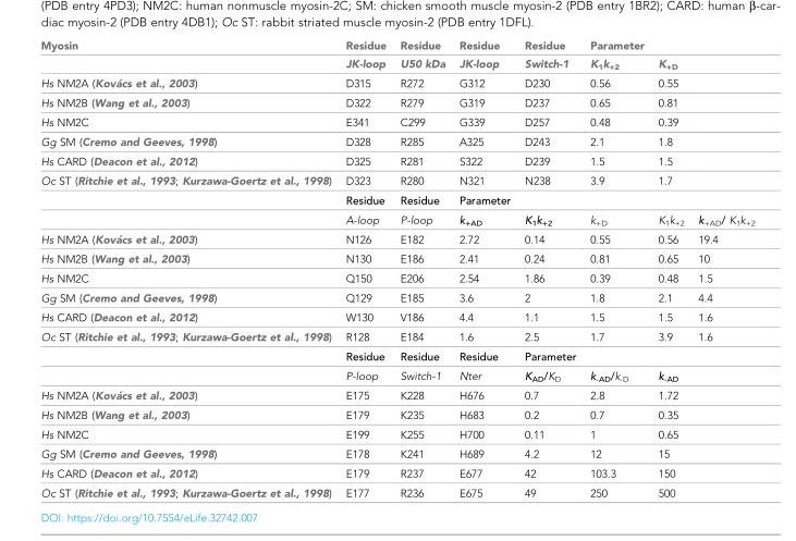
<table><thead><tr><td rowspan="2">Myosin</td><td rowspan="2">Residue JK-loop</td><td rowspan="2">Residue U50 kDa</td><td rowspan="2">Residue JK-loop</td><td rowspan="2">Residue Switch-1</td><td rowspan="2">Parameter K1k+2</td><td rowspan="2">K+D</td><td rowspan="2"></td></tr><tr></tr></thead><tbody><tr><td>Hs NM2A (Kova´cs et al., 2003)</td><td>D315</td><td>R272</td><td>G312</td><td>D230</td><td>0.56</td><td>0.55</td><td></td></tr><tr><td>Hs NM2B (Wang et al., 2003)</td><td>D322</td><td>R279</td><td>G319</td><td>D237</td><td>0.65</td><td>0.81</td><td></td></tr><tr><td>Hs NM2C</td><td>E341</td><td>C299</td><td>G339</td><td>D257</td><td>0.48</td><td>0.39</td><td></td></tr><tr><td>Gg SM (Cremo and Geeves, 1998)</td><td>D328</td><td>R285</td><td>A325</td><td>D243</td><td>2.1</td><td>1.8</td><td></td></tr><tr><td>Hs CARD (Deacon et al., 2012)</td><td>D325</td><td>R281</td><td>S322</td><td>D239</td><td>1.5</td><td>1.5</td><td></td></tr><tr><td rowspan="3">Oc ST (Ritchie et al., 1993; Kurzawa-Goertz et al., 1998)</td><td>D323</td><td>R280</td><td>N321</td><td>N238</td><td>3.9</td><td>1.7</td><td></td></tr><tr><td>Residue</td><td>Residue</td><td>Parameter</td><td></td><td></td><td></td><td></td></tr><tr><td>A-loop</td><td>P-loop</td><td>k<sub>+AD</sub></td><td>K1k+2</td><td>k<sub>+D</sub></td><td>K1k+2</td><td>k<sub>+AD</sub>/ K<sub>1</sub>k<sub>+2</sub></td></tr><tr><td>Hs NM2A (Kova´cs et al., 2003)</td><td>N126</td><td>E182</td><td>2.72</td><td>0.14</td><td>0.55</td><td>0.56</td><td>19.4</td></tr><tr><td>Hs NM2B (Wang et al., 2003)</td><td>N130</td><td>E186</td><td>2.41</td><td>0.24</td><td>0.81</td><td>0.65</td><td>10</td></tr><tr><td>Hs NM2C</td><td>Q150</td><td>E206</td><td>2.54</td><td>1.86</td><td>0.39</td><td>0.48</td><td>1.5</td></tr><tr><td>Gg SM (Cremo and Geeves, 1998)</td><td>Q129</td><td>E185</td><td>3.6</td><td>2</td><td>1.8</td><td>2.1</td><td>4.4</td></tr><tr><td>Hs CARD (Deacon et al., 2012)</td><td>W130</td><td>V186</td><td>4.4</td><td>1.1</td><td>1.5</td><td>1.5</td><td>1.6</td></tr><tr><td rowspan="3">Oc ST (Ritchie et al., 1993; Kurzawa-Goertz et al., 1998)</td><td>R128</td><td>E184</td><td>1.6</td><td>2.5</td><td>1.7</td><td>3.9</td><td>1.6</td></tr><tr><td>Residue</td><td>Residue</td><td>Residue</td><td>Parameter</td><td></td><td></td><td></td></tr><tr><td>P-loop</td><td>Switch-1</td><td>Nter</td><td>K<sub>AD</sub>/K<sub>D</sub></td><td>k<sub>-AD</sub>/k<sub>-D</sub></td><td>k<sub>-AD</sub></td><td></td></tr><tr><td>Hs NM2A (Kova´cs et al., 2003)</td><td>E175</td><td>K228</td><td>H676</td><td>0.7</td><td>2.8</td><td>1.72</td><td></td></tr><tr><td>Hs NM2B (Wang et al., 2003)</td><td>E179</td><td>K235</td><td>H683</td><td>0.2</td><td>0.7</td><td>0.35</td><td></td></tr><tr><td>Hs NM2C</td><td>E199</td><td>K255</td><td>H700</td><td>0.11</td><td>1</td><td>0.65</td><td></td></tr><tr><td>Gg SM (Cremo and Geeves, 1998)</td><td>E178</td><td>K241</td><td>H689</td><td>4.2</td><td>12</td><td>15</td><td></td></tr><tr><td>Hs CARD (Deacon et al., 2012)</td><td>E179</td><td>R237</td><td>E677</td><td>42</td><td>103.3</td><td>150</td><td></td></tr><tr><td>Oc ST (Ritchie et al., 1993; Kurzawa-Goertz et al., 1998)</td><td>E177</td><td>R236</td><td>E675</td><td>49</td><td>250</td><td>500</td><td></td></tr></tbody></table>